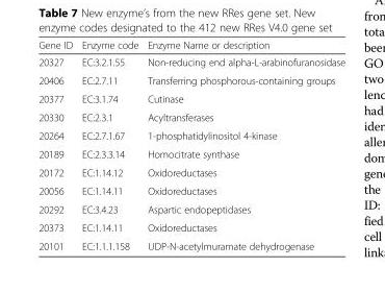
<table><thead><tr><td>Gene ID</td><td>Enzyme code</td><td>Enzyme Name or description</td></tr></thead><tbody><tr><td>20327</td><td>EC:3.2.1.55</td><td>Non-reducing end alpha-L-arabinofuranosidase</td></tr><tr><td>20406</td><td>EC:2.7.11</td><td>Transferring phosphorous-containing groups</td></tr><tr><td>20377</td><td>EC:3.1.74</td><td>Cutinase</td></tr><tr><td>20330</td><td>EC:2.3.1</td><td>Acyltransferases</td></tr><tr><td>20264</td><td>EC:2.7.1.67</td><td>1-phosphatidylinositol 4-kinase</td></tr><tr><td>20189</td><td>EC:2.3.3.14</td><td>Homocitrate synthase</td></tr><tr><td>20172</td><td>EC:1.14.12</td><td>Oxidoreductases</td></tr><tr><td>20056</td><td>EC:1.14.11</td><td>Oxidoreductases</td></tr><tr><td>20292</td><td>EC:3.4.23</td><td>Aspartic endopeptidases</td></tr><tr><td>20373</td><td>EC:1.14.11</td><td>Oxidoreductases</td></tr><tr><td>20101</td><td>EC:1.1.1.158</td><td>UDP-N-acetylmuramate dehydrogenase</td></tr></tbody></table>